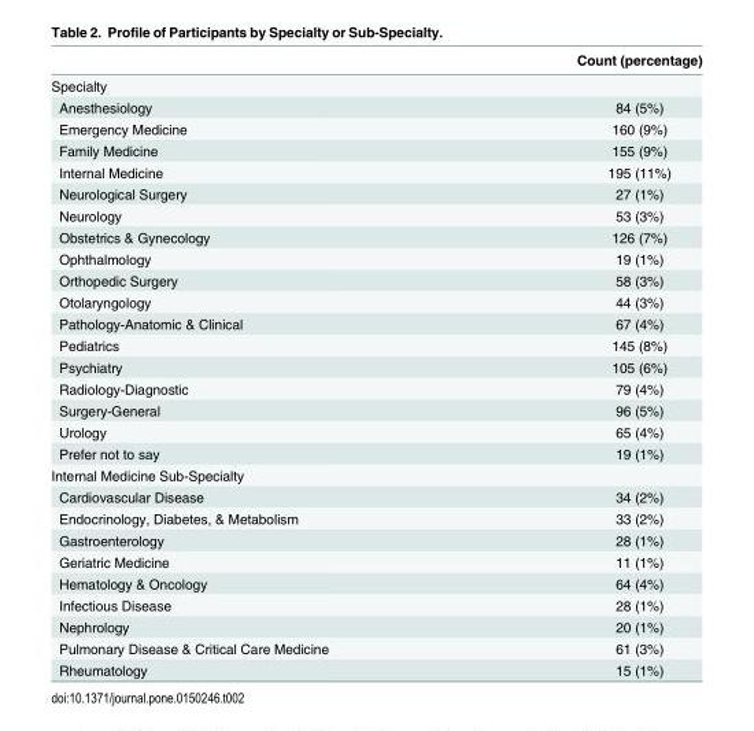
<table><thead><tr><td></td><td>Count (percentage)</td></tr></thead><tbody><tr><td colspan="2">Specialty</td></tr><tr><td>Anesthesiology</td><td>84 (5%)</td></tr><tr><td>Emergency Medicine</td><td>160 (9%)</td></tr><tr><td>Family Medicine</td><td>155 (9%)</td></tr><tr><td>Internal Medicine</td><td>195 (11%)</td></tr><tr><td>Neurological Surgery</td><td>27 (1%)</td></tr><tr><td>Neurology</td><td>53 (3%)</td></tr><tr><td>Obstetrics &amp; Gynecology</td><td>126 (7%)</td></tr><tr><td>Ophthalmology</td><td>19 (1%)</td></tr><tr><td>Orthopedic Surgery</td><td>58 (3%)</td></tr><tr><td>Otolaryngology</td><td>44 (3%)</td></tr><tr><td>Pathology-Anatomic &amp; Clinical</td><td>67 (4%)</td></tr><tr><td>Pediatrics</td><td>145 (8%)</td></tr><tr><td>Psychiatry</td><td>105 (6%)</td></tr><tr><td>Radiology-Diagnostic</td><td>79 (4%)</td></tr><tr><td>Surgery-General</td><td>96 (5%)</td></tr><tr><td>Urology</td><td>65 (4%)</td></tr><tr><td>Prefer not to say</td><td>19 (1%)</td></tr><tr><td colspan="2">Internal Medicine Sub-Specialty</td></tr><tr><td>Cardiovascular Disease</td><td>34 (2%)</td></tr><tr><td>Endocrinology, Diabetes, &amp; Metabolism</td><td>33 (2%)</td></tr><tr><td>Gastroenterology</td><td>28 (1%)</td></tr><tr><td>Geriatric Medicine</td><td>11 (1%)</td></tr><tr><td>Hematology &amp; Oncology</td><td>64 (4%)</td></tr><tr><td>Infectious Disease</td><td>28 (1%)</td></tr><tr><td>Nephrology</td><td>20 (1%)</td></tr><tr><td>Pulmonary Disease &amp; Critical Care Medicine</td><td>61 (3%)</td></tr><tr><td>Rheumatology</td><td>15 (1%)</td></tr></tbody></table>